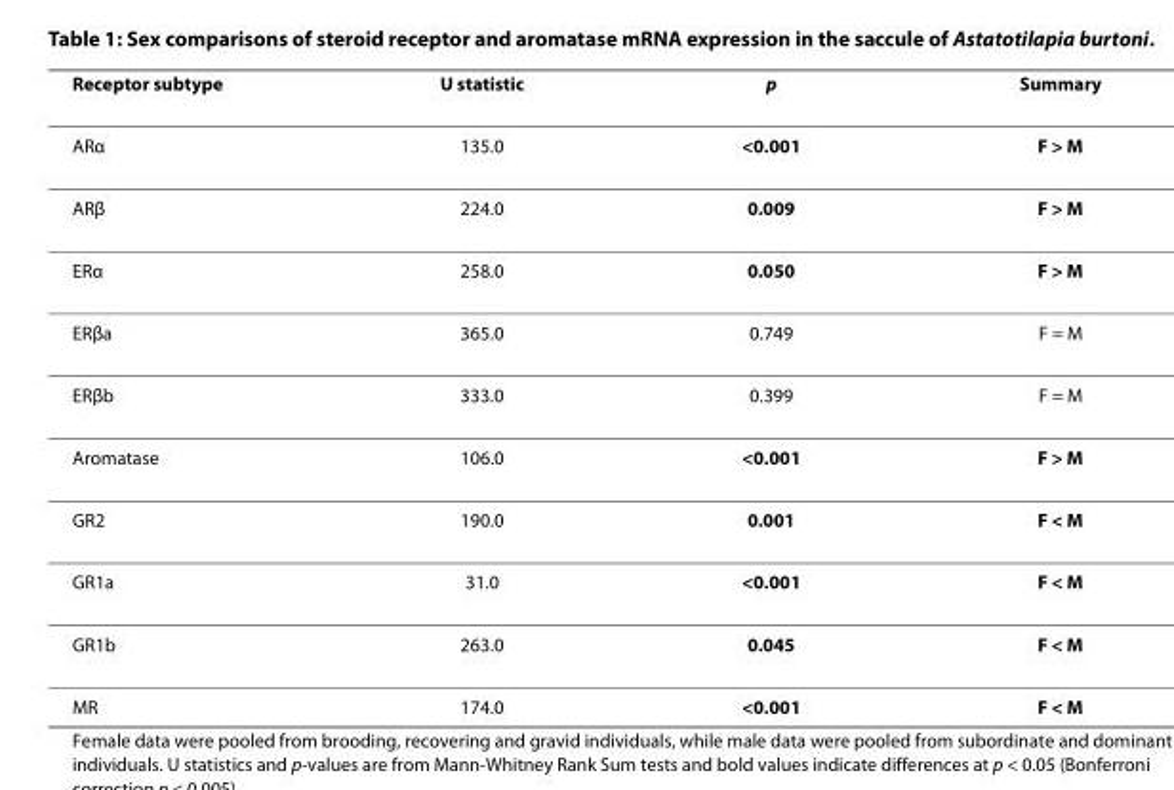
<table><thead><tr><td>Receptor subtype</td><td>U statistic</td><td>p</td><td>Summary</td></tr></thead><tbody><tr><td>ARα</td><td>135.0</td><td>&lt;0.001</td><td>F &gt; M</td></tr><tr><td>ARβ</td><td>224.0</td><td>0.009</td><td>F &gt; M</td></tr><tr><td>ERα</td><td>258.0</td><td>0.050</td><td>F &gt; M</td></tr><tr><td>ERβa</td><td>365.0</td><td>0.749</td><td>F = M</td></tr><tr><td>ERβb</td><td>333.0</td><td>0.399</td><td>F = M</td></tr><tr><td>Aromatase</td><td>106.0</td><td>&lt;0.001</td><td>F &gt; M</td></tr><tr><td>GR2</td><td>190.0</td><td>0.001</td><td>F &lt; M</td></tr><tr><td>GR1a</td><td>31.0</td><td>&lt;0.001</td><td>F &lt; M</td></tr><tr><td>GR1b</td><td>263.0</td><td>0.045</td><td>F &lt; M</td></tr><tr><td>MR</td><td>174.0</td><td>&lt;0.001</td><td>F &lt; M</td></tr></tbody></table>